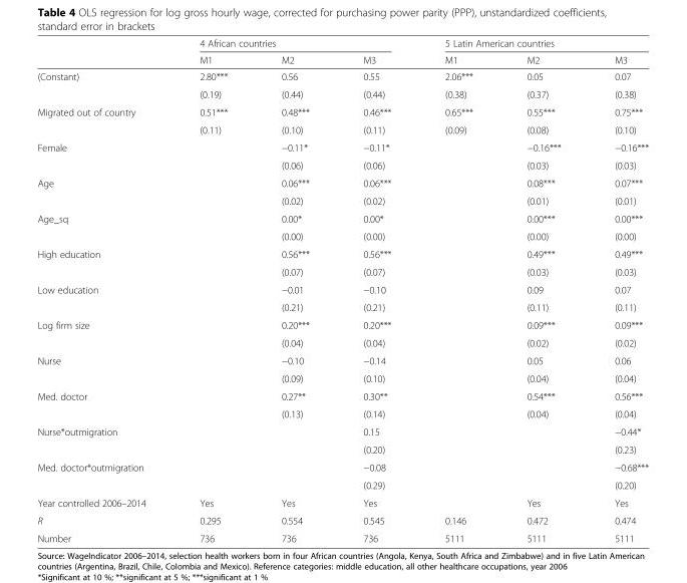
<table><thead><tr><td rowspan="2"></td><td colspan="3">4 African countries</td><td colspan="3">5 Latin American countries</td></tr><tr><td>M1</td><td>M2</td><td>M3</td><td>M1</td><td>M2</td><td>M3</td></tr></thead><tbody><tr><td rowspan="2">(Constant)</td><td>2.80***</td><td>0.56</td><td>0.55</td><td>2.06***</td><td>0.05</td><td>0.07</td></tr><tr><td>(0.19)</td><td>(0.44)</td><td>(0.44)</td><td>(0.38)</td><td>(0.37)</td><td>(0.38)</td></tr><tr><td rowspan="2">Migrated out of country</td><td>0.51***</td><td>0.48***</td><td>0.46***</td><td>0.65***</td><td>0.55***</td><td>0.75***</td></tr><tr><td>(0.11)</td><td>(0.10)</td><td>(0.11)</td><td>(0.09)</td><td>(0.08)</td><td>(0.10)</td></tr><tr><td rowspan="2">Female</td><td></td><td>−0.11*</td><td>−0.11*</td><td></td><td>−0.16***</td><td>−0.16***</td></tr><tr><td></td><td>(0.06)</td><td>(0.06)</td><td></td><td>(0.03)</td><td>(0.03)</td></tr><tr><td rowspan="2">Age</td><td></td><td>0.06***</td><td>0.06***</td><td></td><td>0.08***</td><td>0.07***</td></tr><tr><td></td><td>(0.02)</td><td>(0.02)</td><td></td><td>(0.01)</td><td>(0.01)</td></tr><tr><td rowspan="2">Age_sq</td><td></td><td>0.00*</td><td>0.00*</td><td></td><td>0.00***</td><td>0.00***</td></tr><tr><td></td><td>(0.00)</td><td>(0.00)</td><td></td><td>(0.00)</td><td>(0.00)</td></tr><tr><td rowspan="2">High education</td><td></td><td>0.56***</td><td>0.56***</td><td></td><td>0.49***</td><td>0.49***</td></tr><tr><td></td><td>(0.07)</td><td>(0.07)</td><td></td><td>(0.03)</td><td>(0.03)</td></tr><tr><td rowspan="2">Low education</td><td></td><td>−0.01</td><td>−0.10</td><td></td><td>0.09</td><td>0.07</td></tr><tr><td></td><td>(0.21)</td><td>(0.21)</td><td></td><td>(0.11)</td><td>(0.11)</td></tr><tr><td rowspan="2">Log firm size</td><td></td><td>0.20***</td><td>0.20***</td><td></td><td>0.09***</td><td>0.09***</td></tr><tr><td></td><td>(0.04)</td><td>(0.04)</td><td></td><td>(0.02)</td><td>(0.02)</td></tr><tr><td rowspan="2">Nurse</td><td></td><td>−0.10</td><td>−0.14</td><td></td><td>0.05</td><td>0.06</td></tr><tr><td></td><td>(0.09)</td><td>(0.10)</td><td></td><td>(0.04)</td><td>(0.04)</td></tr><tr><td rowspan="2">Med. doctor</td><td></td><td>0.27**</td><td>0.30**</td><td></td><td>0.54***</td><td>0.56***</td></tr><tr><td></td><td>(0.13)</td><td>(0.14)</td><td></td><td>(0.04)</td><td>(0.04)</td></tr><tr><td rowspan="2">Nurse*outmigration</td><td></td><td></td><td>0.15</td><td></td><td></td><td>−0.44*</td></tr><tr><td></td><td></td><td>(0.20)</td><td></td><td></td><td>(0.23)</td></tr><tr><td rowspan="2">Med. doctor*outmigration</td><td></td><td></td><td>−0.08</td><td></td><td></td><td>−0.68***</td></tr><tr><td></td><td></td><td>(0.29)</td><td></td><td></td><td>(0.20)</td></tr><tr><td>Year controlled 2006–2014</td><td>Yes</td><td>Yes</td><td>Yes</td><td></td><td>Yes</td><td>Yes</td></tr><tr><td>R</td><td>0.295</td><td>0.554</td><td>0.545</td><td>0.146</td><td>0.472</td><td>0.474</td></tr><tr><td>Number</td><td>736</td><td>736</td><td>736</td><td>5111</td><td>5111</td><td>5111</td></tr></tbody></table>